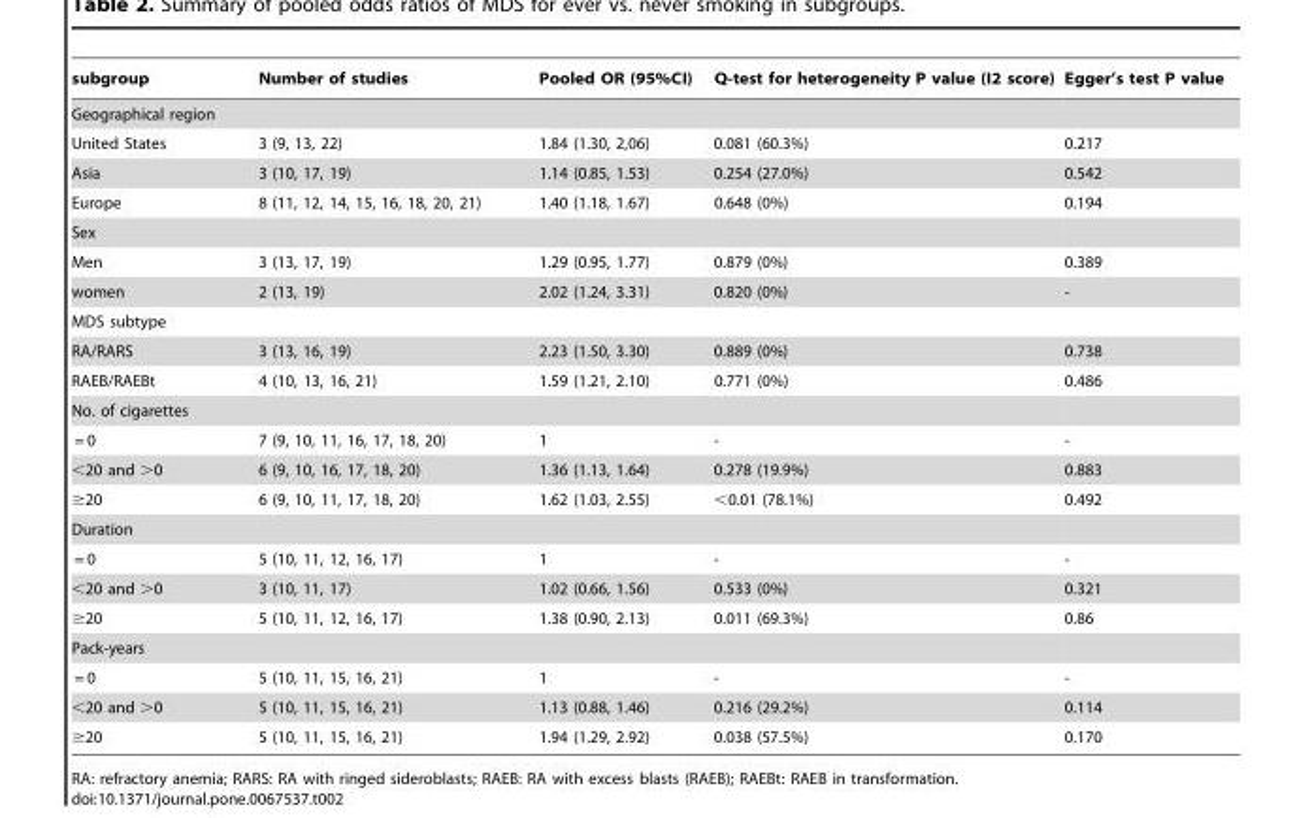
<table><thead><tr><td>subgroup</td><td>Number of studies</td><td>Pooled OR (95%CI)</td><td>Q-test for heterogeneity P value (I2 score)</td><td>Egger’s test P value</td></tr></thead><tbody><tr><td colspan="5">Geographical region</td></tr><tr><td>United States</td><td>3 (9, 13, 22)</td><td>1.84 (1.30, 2,06)</td><td>0.081 (60.3%)</td><td>0.217</td></tr><tr><td>Asia</td><td>3 (10, 17, 19)</td><td>1.14 (0.85, 1.53)</td><td>0.254 (27.0%)</td><td>0.542</td></tr><tr><td>Europe</td><td>8 (11, 12, 14, 15, 16, 18, 20, 21)</td><td>1.40 (1.18, 1.67)</td><td>0.648 (0%)</td><td>0.194</td></tr><tr><td colspan="5">Sex</td></tr><tr><td>Men</td><td>3 (13, 17, 19)</td><td>1.29 (0.95, 1.77)</td><td>0.879 (0%)</td><td>0.389</td></tr><tr><td>women</td><td>2 (13, 19)</td><td>2.02 (1.24, 3.31)</td><td>0.820 (0%)</td><td>-</td></tr><tr><td colspan="5">MDS subtype</td></tr><tr><td>RA/RARS</td><td>3 (13, 16, 19)</td><td>2.23 (1.50, 3.30)</td><td>0.889 (0%)</td><td>0.738</td></tr><tr><td>RAEB/RAEBt</td><td>4 (10, 13, 16, 21)</td><td>1.59 (1.21, 2.10)</td><td>0.771 (0%)</td><td>0.486</td></tr><tr><td colspan="5">No. of cigarettes</td></tr><tr><td>= 0</td><td>7 (9, 10, 11, 16, 17, 18, 20)</td><td>1</td><td>-</td><td>-</td></tr><tr><td>&lt;20 and &gt;0</td><td>6 (9, 10, 16, 17, 18, 20)</td><td>1.36 (1.13, 1.64)</td><td>0.278 (19.9%)</td><td>0.883</td></tr><tr><td>≥20</td><td>6 (9, 10, 11, 17, 18, 20)</td><td>1.62 (1.03, 2.55)</td><td>&lt;0.01 (78.1%)</td><td>0.492</td></tr><tr><td colspan="5">Duration</td></tr><tr><td>= 0</td><td>5 (10, 11, 12, 16, 17)</td><td>1</td><td>-</td><td>-</td></tr><tr><td>&lt;20 and &gt;0</td><td>3 (10, 11, 17)</td><td>1.02 (0.66, 1.56)</td><td>0.533 (0%)</td><td>0.321</td></tr><tr><td>≥20</td><td>5 (10, 11, 12, 16, 17)</td><td>1.38 (0.90, 2.13)</td><td>0.011 (69.3%)</td><td>0.86</td></tr><tr><td colspan="5">Pack-years</td></tr><tr><td>= 0</td><td>5 (10, 11, 15, 16, 21)</td><td>1</td><td>-</td><td>-</td></tr><tr><td>&lt;20 and &gt;0</td><td>5 (10, 11, 15, 16, 21)</td><td>1.13 (0.88, 1.46)</td><td>0.216 (29.2%)</td><td>0.114</td></tr><tr><td>≥20</td><td>5 (10, 11, 15, 16, 21)</td><td>1.94 (1.29, 2.92)</td><td>0.038 (57.5%)</td><td>0.170</td></tr></tbody></table>